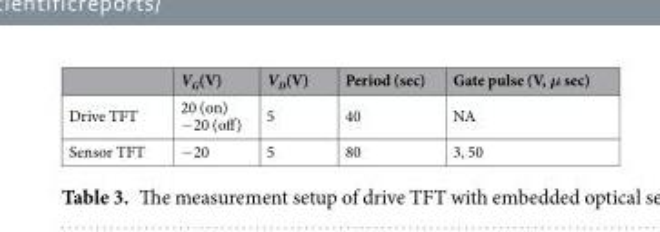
<table><thead><tr><td></td><td>V<sub>G</sub>(V)</td><td>V<sub>D</sub>(V)</td><td>Period (sec)</td><td>Gate pulse (V, μ sec)</td></tr></thead><tbody><tr><td>Drive TFT</td><td>20 (on) −20 (off)</td><td>5</td><td>40</td><td>NA</td></tr><tr><td>Sensor TFT</td><td>−20</td><td>5</td><td>80</td><td>3, 50</td></tr></tbody></table>